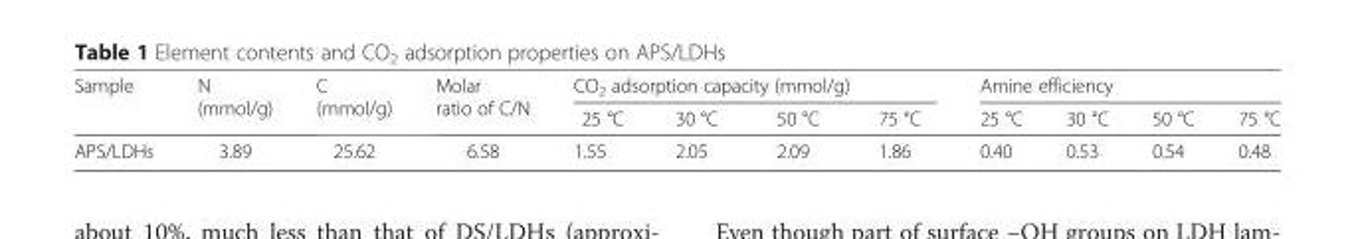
<table><thead><tr><td rowspan="2">Sample</td><td rowspan="2">N (mmol/g)</td><td rowspan="2">C (mmol/g)</td><td rowspan="2">Molar ratio of C/N</td><td colspan="4">CO<sub>2</sub> adsorption capacity (mmol/g)</td><td colspan="4">Amine efficiency</td></tr><tr><td>25 °C</td><td>30 °C</td><td>50 °C</td><td>75 °C</td><td>25 °C</td><td>30 °C</td><td>50 °C</td><td>75 °C</td></tr></thead><tbody><tr><td>APS/LDHs</td><td>3.89</td><td>25.62</td><td>6.58</td><td>1.55</td><td>2.05</td><td>2.09</td><td>1.86</td><td>0.40</td><td>0.53</td><td>0.54</td><td>0.48</td></tr></tbody></table>